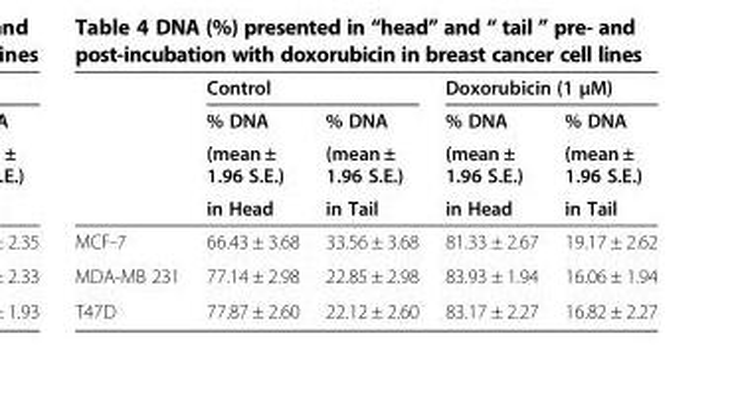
<table><thead><tr><td rowspan="4"></td><td colspan="2">Control</td><td colspan="2">Doxorubicin (1 μM)</td></tr><tr><td rowspan="3">% DNA (mean ± 1.96 S.E.) in Head</td><td rowspan="3">% DNA (mean ± 1.96 S.E.) in Tail</td><td rowspan="3">% DNA (mean ± 1.96 S.E.) in Head</td><td rowspan="3">% DNA (mean ± 1.96 S.E.) in Tail</td></tr><tr></tr><tr></tr></thead><tbody><tr><td>MCF-7</td><td>66.43 ± 3.68</td><td>33.56 ± 3.68</td><td>81.33 ± 2.67</td><td>19.17 ± 2.62</td></tr><tr><td>MDA-MB 231</td><td>77.14 ± 2.98</td><td>22.85 ± 2.98</td><td>83.93 ± 1.94</td><td>16.06 ± 1.94</td></tr><tr><td>T47D</td><td>77.87 ± 2.60</td><td>22.12 ± 2.60</td><td>83.17 ± 2.27</td><td>16.82 ± 2.27</td></tr></tbody></table>